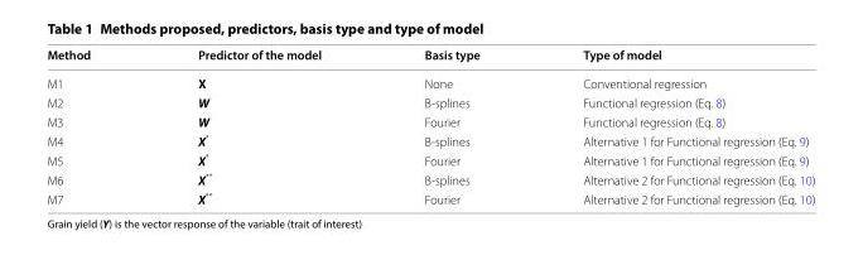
<table><thead><tr><td>Method</td><td>Predictor of the model</td><td>Basis type</td><td>Type of model</td></tr></thead><tbody><tr><td>M1</td><td>X</td><td>None</td><td>Conventional regression</td></tr><tr><td>M2</td><td>W</td><td>B‑splines</td><td>Functional regression (Eq. 8)</td></tr><tr><td>M3</td><td>W</td><td>Fourier</td><td>Functional regression (Eq. 8)</td></tr><tr><td>M4</td><td>X*</td><td>B‑splines</td><td>Alternative 1 for Functional regression (Eq. 9)</td></tr><tr><td>M5</td><td>X*</td><td>Fourier</td><td>Alternative 1 for Functional regression (Eq. 9)</td></tr><tr><td>M6</td><td>X**</td><td>B‑splines</td><td>Alternative 2 for Functional regression (Eq. 10)</td></tr><tr><td>M7</td><td>X**</td><td>Fourier</td><td>Alternative 2 for Functional regression (Eq. 10)</td></tr></tbody></table>